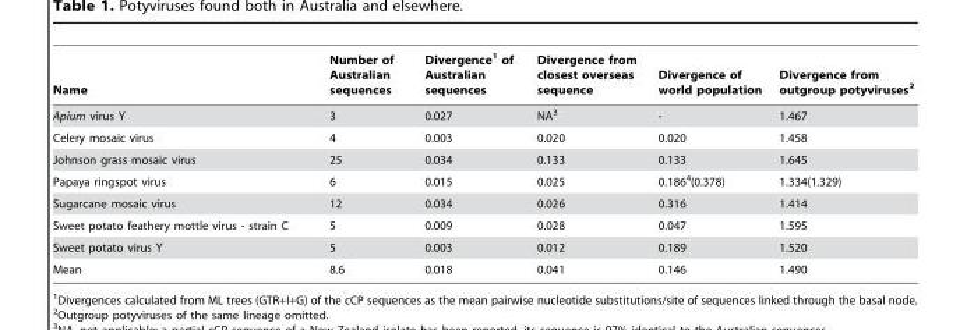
<table><thead><tr><td>Name</td><td>Number of Australian sequences</td><td>Divergence<sup>1</sup> of Australian sequences</td><td>Divergence from closest overseas sequence</td><td>Divergence of world population</td><td>Divergence from outgroup potyviruses<sup>2</sup></td></tr></thead><tbody><tr><td>Apium virus Y</td><td>3</td><td>0.027</td><td>NA<sup>3</sup></td><td>-</td><td>1.467</td></tr><tr><td>Celery mosaic virus</td><td>4</td><td>0.003</td><td>0.020</td><td>0.020</td><td>1.458</td></tr><tr><td>Johnson grass mosaic virus</td><td>25</td><td>0.034</td><td>0.133</td><td>0.133</td><td>1.645</td></tr><tr><td>Papaya ringspot virus</td><td>6</td><td>0.015</td><td>0.025</td><td>0.186<sup>4</sup>(0.378)</td><td>1.334(1.329)</td></tr><tr><td>Sugarcane mosaic virus</td><td>12</td><td>0.034</td><td>0.026</td><td>0.316</td><td>1.414</td></tr><tr><td>Sweet potato feathery mottle virus - strain C</td><td>5</td><td>0.009</td><td>0.028</td><td>0.047</td><td>1.595</td></tr><tr><td>Sweet potato virus Y</td><td>5</td><td>0.003</td><td>0.012</td><td>0.189</td><td>1.520</td></tr><tr><td>Mean</td><td>8.6</td><td>0.018</td><td>0.041</td><td>0.146</td><td>1.490</td></tr></tbody></table>